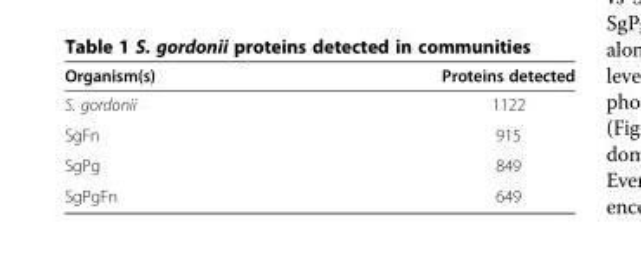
<table><thead><tr><td>Organism(s)</td><td>Proteins detected</td></tr></thead><tbody><tr><td>S. gordonii</td><td>1122</td></tr><tr><td>SgFn</td><td>915</td></tr><tr><td>SgPg</td><td>849</td></tr><tr><td>SgPgFn</td><td>649</td></tr></tbody></table>